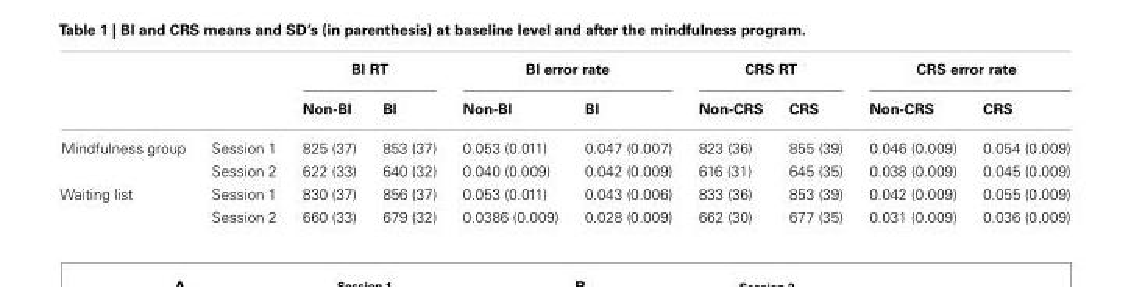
<table><thead><tr><td rowspan="2"></td><td rowspan="2"></td><td colspan="2">BI RT</td><td colspan="2">BI error rate</td><td colspan="2">CRS RT</td><td colspan="2">CRS error rate</td></tr><tr><td>Non-BI</td><td>BI</td><td>Non-BI</td><td>BI</td><td>Non-CRS</td><td>CRS</td><td>Non-CRS</td><td>CRS</td></tr></thead><tbody><tr><td rowspan="2">Mindfulness group</td><td>Session 1</td><td>825 (37)</td><td>853 (37)</td><td>0.053 (0.011)</td><td>0.047 (0.007)</td><td>823 (36)</td><td>855 (39)</td><td>0.046 (0.009)</td><td>0.054 (0.009)</td></tr><tr><td>Session 2</td><td>622 (33)</td><td>640 (32)</td><td>0.040 (0.009)</td><td>0.042 (0.009)</td><td>616 (31)</td><td>645 (35)</td><td>0.038 (0.009)</td><td>0.045 (0.009)</td></tr><tr><td rowspan="2">Waiting list</td><td>Session 1</td><td>830 (37)</td><td>856 (37)</td><td>0.053 (0.011)</td><td>0.043 (0.006)</td><td>833 (36)</td><td>853 (39)</td><td>0.042 (0.009)</td><td>0.055 (0.009)</td></tr><tr><td>Session 2</td><td>660 (33)</td><td>679 (32)</td><td>0.0386 (0.009)</td><td>0.028 (0.009)</td><td>662 (30)</td><td>677 (35)</td><td>0.031 (0.009)</td><td>0.036 (0.009)</td></tr></tbody></table>